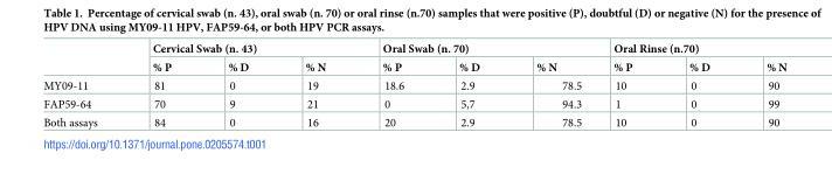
<table><thead><tr><td rowspan="2"></td><td colspan="3">Cervical Swab (n. 43)</td><td colspan="3">Oral Swab (n. 70)</td><td colspan="3">Oral Rinse (n.70)</td></tr><tr><td>% P</td><td>% D</td><td>% N</td><td>% P</td><td>% D</td><td>% N</td><td>% P</td><td>% D</td><td>% N</td></tr></thead><tbody><tr><td>MY09-11</td><td>81</td><td>0</td><td>19</td><td>18.6</td><td>2.9</td><td>78.5</td><td>10</td><td>0</td><td>90</td></tr><tr><td>FAP59-64</td><td>70</td><td>9</td><td>21</td><td>0</td><td>5,7</td><td>94.3</td><td>1</td><td>0</td><td>99</td></tr><tr><td>Both assays</td><td>84</td><td>0</td><td>16</td><td>20</td><td>2.9</td><td>78.5</td><td>10</td><td>0</td><td>90</td></tr></tbody></table>